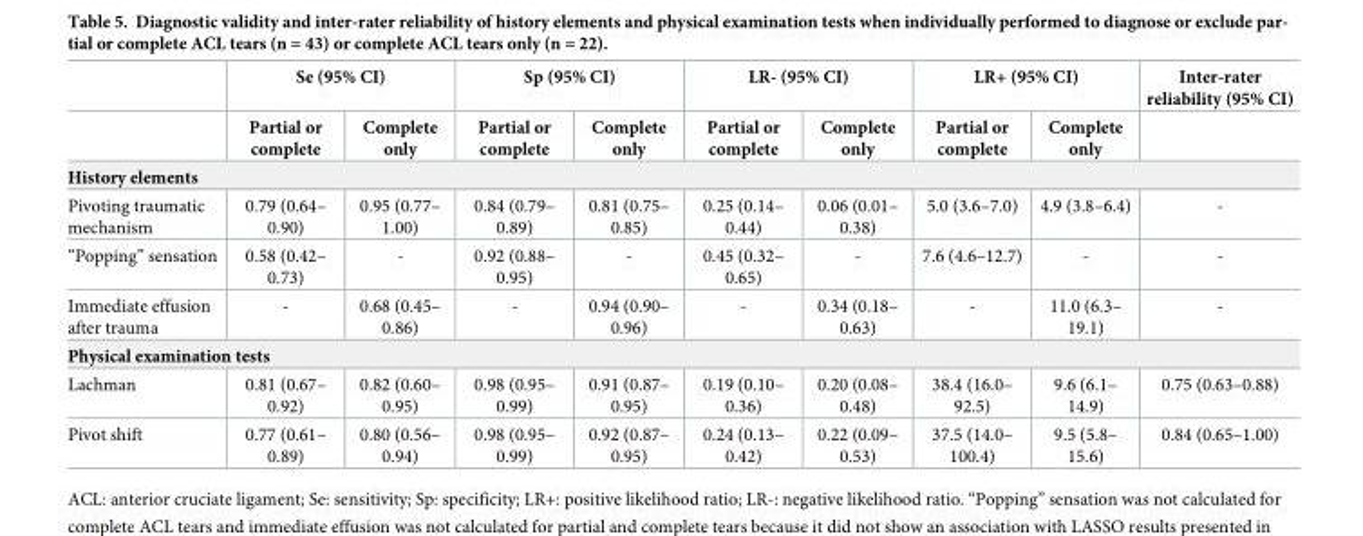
<table><thead><tr><td rowspan="2"></td><td colspan="2">Se (95% CI)</td><td colspan="2">Sp (95% CI)</td><td colspan="2">LR- (95% CI)</td><td colspan="2">LR+ (95% CI)</td><td rowspan="2">Inter-rater reliability (95% CI)</td></tr><tr><td>Partial or complete</td><td>Complete only</td><td>Partial or complete</td><td>Complete only</td><td>Partial or complete</td><td>Complete only</td><td>Partial or complete</td><td>Complete only</td></tr></thead><tbody><tr><td colspan="10">History elements</td></tr><tr><td>Pivoting traumatic mechanism</td><td>0.79 (0.64– 0.90)</td><td>0.95 (0.77– 1.00)</td><td>0.84 (0.79– 0.89)</td><td>0.81 (0.75– 0.85)</td><td>0.25 (0.14– 0.44)</td><td>0.06 (0.01– 0.38)</td><td>5.0 (3.6–7.0)</td><td>4.9 (3.8–6.4)</td><td>-</td></tr><tr><td>“Popping” sensation</td><td>0.58 (0.42– 0.73)</td><td>-</td><td>0.92 (0.88– 0.95)</td><td>-</td><td>0.45 (0.32– 0.65)</td><td>-</td><td>7.6 (4.6–12.7)</td><td>-</td><td>-</td></tr><tr><td>Immediate effusion after trauma</td><td>-</td><td>0.68 (0.45– 0.86)</td><td>-</td><td>0.94 (0.90– 0.96)</td><td>-</td><td>0.34 (0.18– 0.63)</td><td>-</td><td>11.0 (6.3– 19.1)</td><td>-</td></tr><tr><td colspan="10">Physical examination tests</td></tr><tr><td>Lachman</td><td>0.81 (0.67– 0.92)</td><td>0.82 (0.60– 0.95)</td><td>0.98 (0.95– 0.99)</td><td>0.91 (0.87– 0.95)</td><td>0.19 (0.10– 0.36)</td><td>0.20 (0.08– 0.48)</td><td>38.4 (16.0– 92.5)</td><td>9.6 (6.1– 14.9)</td><td>0.75 (0.63–0.88)</td></tr><tr><td>Pivot shift</td><td>0.77 (0.61– 0.89)</td><td>0.80 (0.56– 0.94)</td><td>0.98 (0.95– 0.99)</td><td>0.92 (0.87– 0.95)</td><td>0.24 (0.13– 0.42)</td><td>0.22 (0.09– 0.53)</td><td>37.5 (14.0– 100.4)</td><td>9.5 (5.8– 15.6)</td><td>0.84 (0.65–1.00)</td></tr></tbody></table>